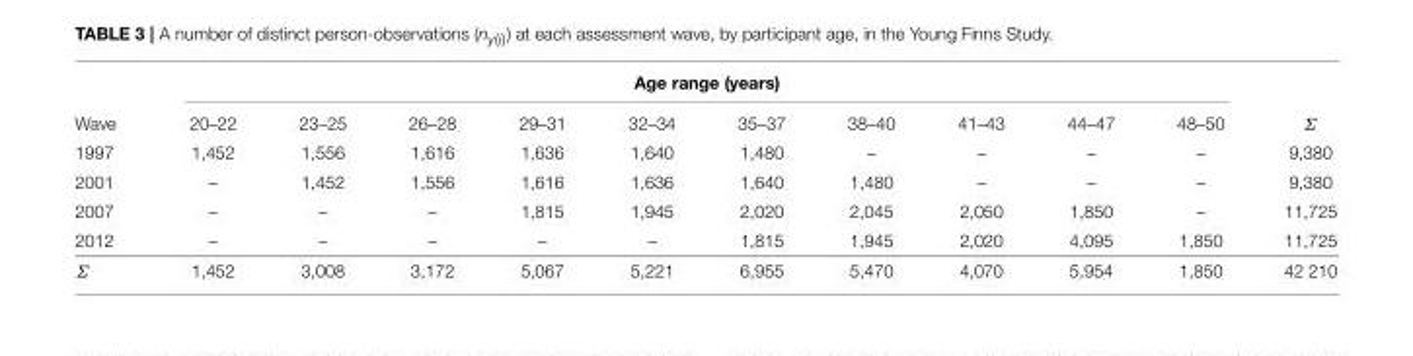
<table><thead><tr><td rowspan="2">Wave</td><td colspan="10">Age range (years)</td><td rowspan="2">Σ</td></tr><tr><td>20–22</td><td>23–25</td><td>26–28</td><td>29–31</td><td>32–34</td><td>35–37</td><td>38–40</td><td>41–43</td><td>44–47</td><td>48–50</td></tr></thead><tbody><tr><td>1997</td><td>1,452</td><td>1,556</td><td>1,616</td><td>1,636</td><td>1,640</td><td>1,480</td><td>–</td><td>–</td><td>–</td><td>–</td><td>9,380</td></tr><tr><td>2001</td><td>–</td><td>1,452</td><td>1,556</td><td>1,616</td><td>1,636</td><td>1,640</td><td>1,480</td><td>–</td><td>–</td><td>–</td><td>9,380</td></tr><tr><td>2007</td><td>–</td><td>–</td><td>–</td><td>1,815</td><td>1,945</td><td>2,020</td><td>2,045</td><td>2,050</td><td>1,850</td><td>–</td><td>11,725</td></tr><tr><td>2012</td><td>–</td><td>–</td><td>–</td><td>–</td><td>–</td><td>1,815</td><td>1,945</td><td>2,020</td><td>4,095</td><td>1,850</td><td>11,725</td></tr><tr><td>Σ</td><td>1,452</td><td>3,008</td><td>3,172</td><td>5,067</td><td>5,221</td><td>6,955</td><td>5,470</td><td>4,070</td><td>5,954</td><td>1,850</td><td>42 210</td></tr></tbody></table>